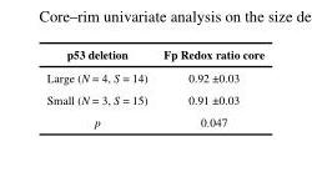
<table><thead><tr><td>p53 deletion</td><td>Fp Redox ratio core</td></tr></thead><tbody><tr><td>Large (N = 4, S = 14)</td><td>0.92 ±0.03</td></tr><tr><td>Small (N = 3, S = 15)</td><td>0.91 ±0.03</td></tr><tr><td>p</td><td>0.047</td></tr></tbody></table>